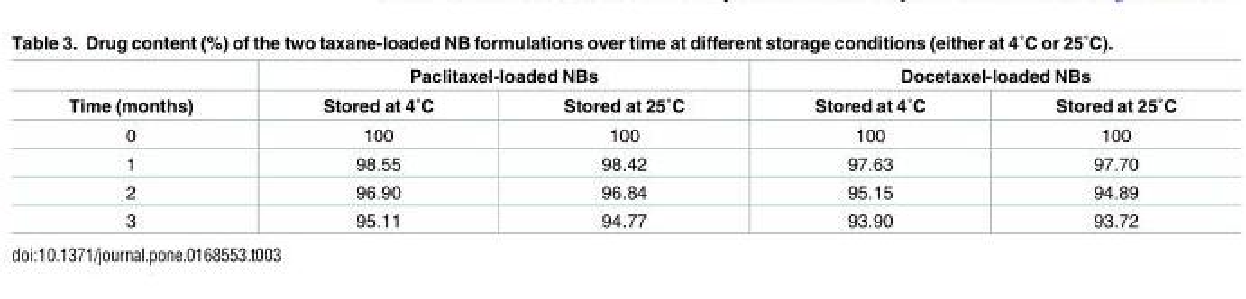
<table><thead><tr><td rowspan="2">Time (months)</td><td colspan="2">Paclitaxel-loaded NBs</td><td colspan="2">Docetaxel-loaded NBs</td></tr><tr><td>Stored at 4˚C</td><td>Stored at 25˚C</td><td>Stored at 4˚C</td><td>Stored at 25˚C</td></tr></thead><tbody><tr><td>0</td><td>100</td><td>100</td><td>100</td><td>100</td></tr><tr><td>1</td><td>98.55</td><td>98.42</td><td>97.63</td><td>97.70</td></tr><tr><td>2</td><td>96.90</td><td>96.84</td><td>95.15</td><td>94.89</td></tr><tr><td>3</td><td>95.11</td><td>94.77</td><td>93.90</td><td>93.72</td></tr></tbody></table>